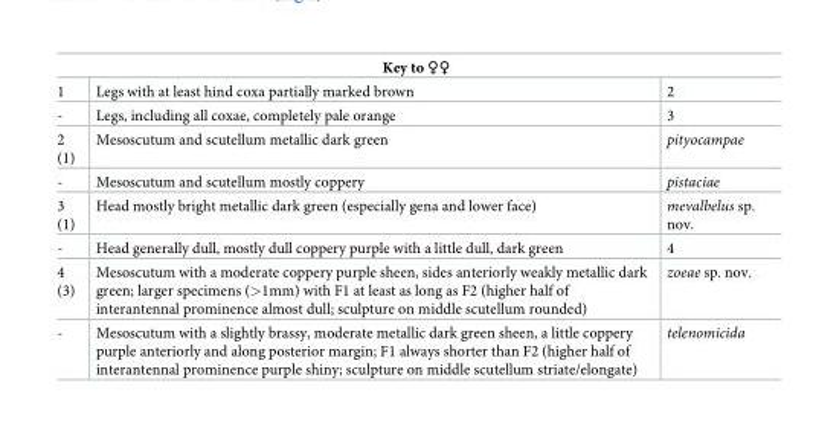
<table><thead><tr><td colspan="3">Key to ♀♀</td></tr><tr><td>1</td><td>Legs with at least hind coxa partially marked brown</td><td>2</td></tr></thead><tbody><tr><td>-</td><td>Legs, including all coxae, completely pale orange</td><td>3</td></tr><tr><td>2 (1)</td><td>Mesoscutum and scutellum metallic dark green</td><td>pityocampae</td></tr><tr><td>-</td><td>Mesoscutum and scutellum mostly coppery</td><td>pistaciae</td></tr><tr><td>3 (1)</td><td>Head mostly bright metallic dark green (especially gena and lower face)</td><td>mevalbelus sp. nov.</td></tr><tr><td>-</td><td>Head generally dull, mostly dull coppery purple with a little dull, dark green</td><td>4</td></tr><tr><td>4 (3)</td><td>Mesoscutum with a moderate coppery purple sheen, sides anteriorly weakly metallic dark green; larger specimens (&gt;1mm) with F1 at least as long as F2 (higher half of interantennal prominence almost dull; sculpture on middle scutellum rounded)</td><td>zoeae sp. nov.</td></tr><tr><td>-</td><td>Mesoscutum with a slightly brassy, moderate metallic dark green sheen, a little coppery purple anteriorly and along posterior margin; F1 always shorter than F2 (higher half of interantennal prominence purple shiny; sculpture on middle scutellum striate/elongate)</td><td>telenomicida</td></tr></tbody></table>